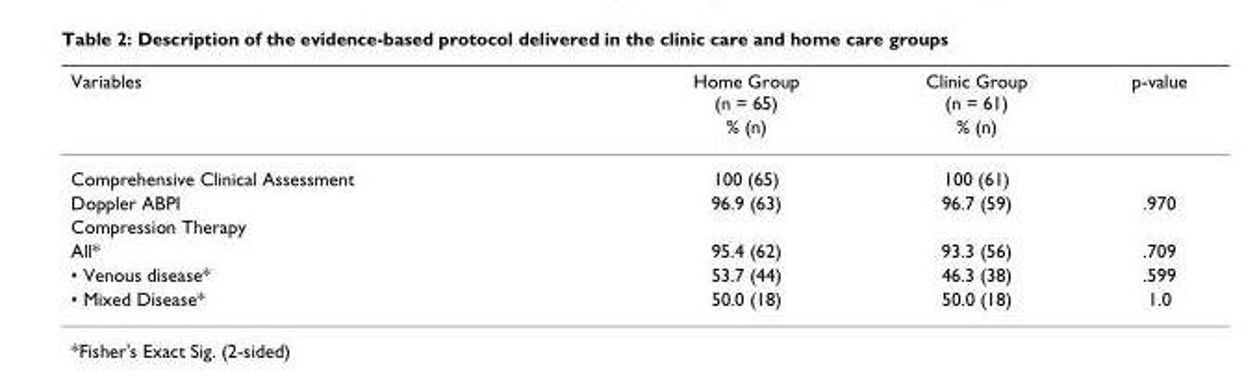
<table><thead><tr><td rowspan="2">Variables</td><td rowspan="2">Home Group (n = 65) % (n)</td><td rowspan="2">Clinic Group (n = 61) % (n)</td><td rowspan="2">p-value</td></tr><tr></tr></thead><tbody><tr><td>Comprehensive Clinical Assessment</td><td>100 (65)</td><td>100 (61)</td><td></td></tr><tr><td>Doppler ABPI</td><td>96.9 (63)</td><td>96.7 (59)</td><td>.970</td></tr><tr><td colspan="4">Compression Therapy</td></tr><tr><td>All*</td><td>95.4 (62)</td><td>93.3 (56)</td><td>.709</td></tr><tr><td>• Venous disease*</td><td>53.7 (44)</td><td>46.3 (38)</td><td>.599</td></tr><tr><td>• Mixed Disease*</td><td>50.0 (18)</td><td>50.0 (18)</td><td>1.0</td></tr></tbody></table>